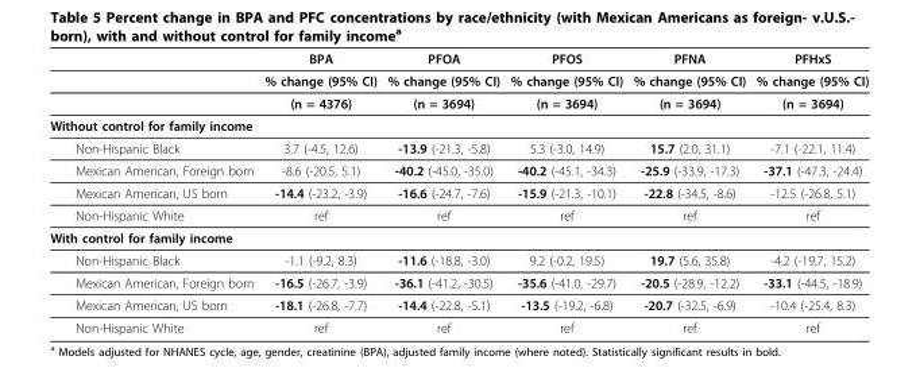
<table><thead><tr><td></td><td>BPA</td><td>PFOA</td><td>PFOS</td><td>PFNA</td><td>PFHxS</td></tr></thead><tbody><tr><td></td><td>% change (95% CI)</td><td>% change (95% CI)</td><td>% change (95% CI)</td><td>% change (95% CI)</td><td>% change (95% CI)</td></tr><tr><td></td><td>(n = 4376)</td><td>(n = 3694)</td><td>(n = 3694)</td><td>(n = 3694)</td><td>(n = 3694)</td></tr><tr><td colspan="6">Without control for family income</td></tr><tr><td>Non-Hispanic Black</td><td>3.7 (-4.5, 12.6)</td><td>-13.9 (-21.3, -5.8)</td><td>5.3 (-3.0, 14.9)</td><td>15.7 (2.0, 31.1)</td><td>-7.1 (-22.1, 11.4)</td></tr><tr><td>Mexican American, Foreign born</td><td>-8.6 (-20.5, 5.1)</td><td>-40.2 (-45.0, -35.0)</td><td>-40.2 (-45.1, -34.3)</td><td>-25.9 (-33.9, -17.3)</td><td>-37.1 (-47.3, -24.4)</td></tr><tr><td>Mexican American, US born</td><td>-14.4 (-23.2, -3.9)</td><td>-16.6 (-24.7, -7.6)</td><td>-15.9 (-21.3, -10.1)</td><td>-22.8 (-34.5, -8.6)</td><td>-12.5 (-26.8, 5.1)</td></tr><tr><td>Non-Hispanic White</td><td>ref</td><td>ref</td><td>ref</td><td>ref</td><td>ref</td></tr><tr><td colspan="6">With control for family income</td></tr><tr><td>Non-Hispanic Black</td><td>-1.1 (-9.2, 8.3)</td><td>-11.6 (-18.8, -3.0)</td><td>9.2 (-0.2, 19.5)</td><td>19.7 (5.6, 35.8)</td><td>-4.2 (-19.7, 15.2)</td></tr><tr><td>Mexican American, Foreign born</td><td>-16.5 (-26.7, -3.9)</td><td>-36.1 (-41.2, -30.5)</td><td>-35.6 (-41.0, -29.7)</td><td>-20.5 (-28.9, -12.2)</td><td>-33.1 (-44.5, -18.9)</td></tr><tr><td>Mexican American, US born</td><td>-18.1 (-26.8, -7.7)</td><td>-14.4 (-22.8, -5.1)</td><td>-13.5 (-19.2, -6.8)</td><td>-20.7 (-32.5, -6.9)</td><td>-10.4 (-25.4, 8.3)</td></tr><tr><td>Non-Hispanic White</td><td>ref</td><td>ref</td><td>ref</td><td>ref</td><td>ref</td></tr></tbody></table>